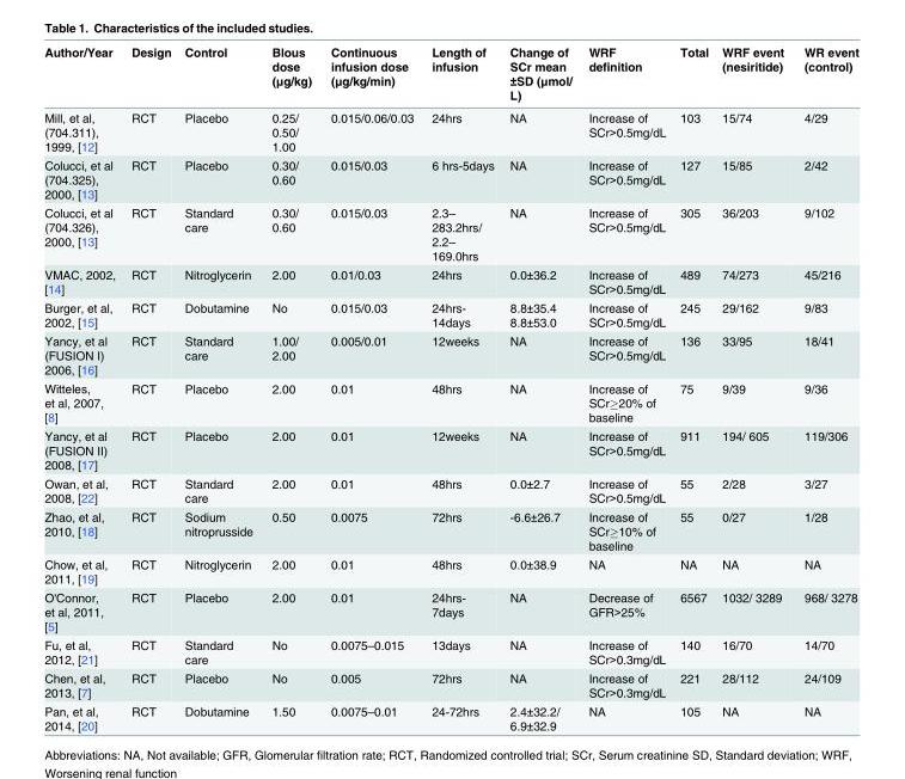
<table><thead><tr><td>Author/Year</td><td>Design</td><td>Control</td><td>Blous dose (μg/kg)</td><td>Continuous infusion dose (μg/kg/min)</td><td>Length of infusion</td><td>Change of SCr mean ±SD (μmol/ L)</td><td>WRF definition</td><td>Total</td><td>WRF event (nesiritide)</td><td>WR event (control)</td></tr></thead><tbody><tr><td>Mill, et al, (704.311), 1999, [12]</td><td>RCT</td><td>Placebo</td><td>0.25/ 0.50/ 1.00</td><td>0.015/0.06/0.03</td><td>24hrs</td><td>NA</td><td>Increase of SCr&gt;0.5mg/dL</td><td>103</td><td>15/74</td><td>4/29</td></tr><tr><td>Colucci, et al (704.325), 2000, [13]</td><td>RCT</td><td>Placebo</td><td>0.30/ 0.60</td><td>0.015/0.03</td><td>6 hrs-5days</td><td>NA</td><td>Increase of SCr&gt;0.5mg/dL</td><td>127</td><td>15/85</td><td>2/42</td></tr><tr><td>Colucci, et al (704.326), 2000, [13]</td><td>RCT</td><td>Standard care</td><td>0.30/ 0.60</td><td>0.015/0.03</td><td>2.3– 283.2hrs/ 2.2– 169.0hrs</td><td>NA</td><td>Increase of SCr&gt;0.5mg/dL</td><td>305</td><td>36/203</td><td>9/102</td></tr><tr><td>VMAC, 2002, [14]</td><td>RCT</td><td>Nitroglycerin</td><td>2.00</td><td>0.01/0.03</td><td>24hrs</td><td>0.0±36.2</td><td>Increase of SCr&gt;0.5mg/dL</td><td>489</td><td>74/273</td><td>45/216</td></tr><tr><td>Burger, et al, 2002, [15]</td><td>RCT</td><td>Dobutamine</td><td>No</td><td>0.015/0.03</td><td>24hrs- 14days</td><td>8.8±35.4 8.8±53.0</td><td>Increase of SCr&gt;0.5mg/dL</td><td>245</td><td>29/162</td><td>9/83</td></tr><tr><td>Yancy, et al (FUSION I) 2006, [16]</td><td>RCT</td><td>Standard care</td><td>1.00/ 2.00</td><td>0.005/0.01</td><td>12weeks</td><td>NA</td><td>Increase of SCr&gt;0.5mg/dL</td><td>136</td><td>33/95</td><td>18/41</td></tr><tr><td>Witteles, et al, 2007, [8]</td><td>RCT</td><td>Placebo</td><td>2.00</td><td>0.01</td><td>48hrs</td><td>NA</td><td>Increase of SCr≥20% of baseline</td><td>75</td><td>9/39</td><td>9/36</td></tr><tr><td>Yancy, et al (FUSION II) 2008, [17]</td><td>RCT</td><td>Placebo</td><td>2.00</td><td>0.01</td><td>12weeks</td><td>NA</td><td>Increase of SCr&gt;0.5mg/dL</td><td>911</td><td>194/ 605</td><td>119/306</td></tr><tr><td>Owan, et al, 2008, [22]</td><td>RCT</td><td>Standard care</td><td>2.00</td><td>0.01</td><td>48hrs</td><td>0.0±2.7</td><td>Increase of SCr&gt;0.5mg/dL</td><td>55</td><td>2/28</td><td>3/27</td></tr><tr><td>Zhao, et al, 2010, [18]</td><td>RCT</td><td>Sodium nitroprusside</td><td>0.50</td><td>0.0075</td><td>72hrs</td><td>-6.6±26.7</td><td>Increase of SCr≥10% of baseline</td><td>55</td><td>0/27</td><td>1/28</td></tr><tr><td>Chow, et al, 2011, [19]</td><td>RCT</td><td>Nitroglycerin</td><td>2.00</td><td>0.01</td><td>48hrs</td><td>0.0±38.9</td><td>NA</td><td>NA</td><td>NA</td><td>NA</td></tr><tr><td>O&#x27;Connor, et al, 2011, [5]</td><td>RCT</td><td>Placebo</td><td>2.00</td><td>0.01</td><td>24hrs- 7days</td><td>NA</td><td>Decrease of GFR&gt;25%</td><td>6567</td><td>1032/ 3289</td><td>968/ 3278</td></tr><tr><td>Fu, et al, 2012, [21]</td><td>RCT</td><td>Standard care</td><td>No</td><td>0.0075–0.015</td><td>13days</td><td>NA</td><td>Increase of SCr&gt;0.3mg/dL</td><td>140</td><td>16/70</td><td>14/70</td></tr><tr><td>Chen, et al, 2013, [7]</td><td>RCT</td><td>Placebo</td><td>No</td><td>0.005</td><td>72hrs</td><td>NA</td><td>Increase of SCr&gt;0.3mg/dL</td><td>221</td><td>28/112</td><td>24/109</td></tr><tr><td>Pan, et al, 2014, [20]</td><td>RCT</td><td>Dobutamine</td><td>1.50</td><td>0.0075–0.01</td><td>24-72hrs</td><td>2.4±32.2/ 6.9±32.9</td><td>NA</td><td>105</td><td>NA</td><td>NA</td></tr></tbody></table>